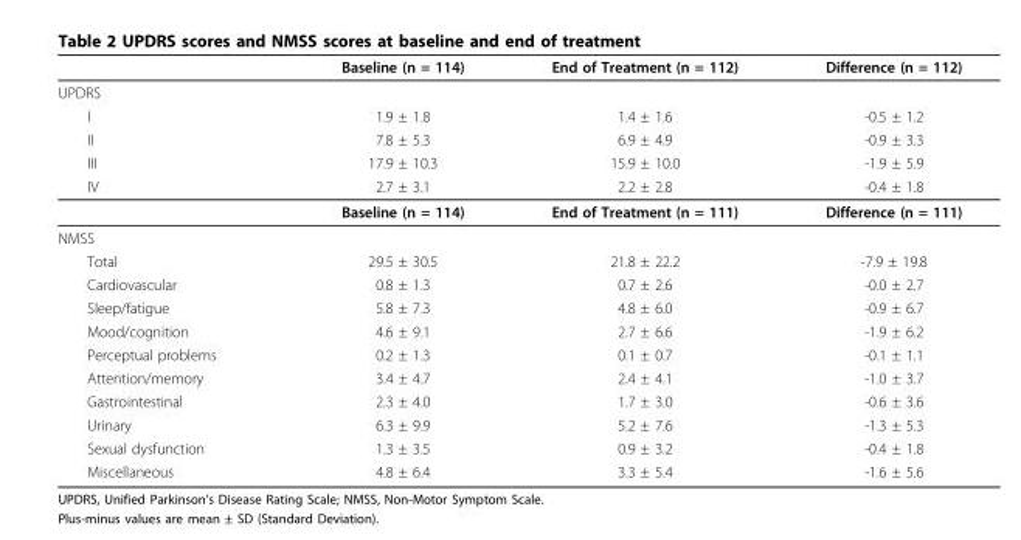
<table><thead><tr><td></td><td>Baseline (n = 114)</td><td>End of Treatment (n = 112)</td><td>Difference (n = 112)</td></tr></thead><tbody><tr><td colspan="4">UPDRS</td></tr><tr><td>I</td><td>1.9 ± 1.8</td><td>1.4 ± 1.6</td><td>-0.5 ± 1.2</td></tr><tr><td>II</td><td>7.8 ± 5.3</td><td>6.9 ± 4.9</td><td>-0.9 ± 3.3</td></tr><tr><td>III</td><td>17.9 ± 10.3</td><td>15.9 ± 10.0</td><td>-1.9 ± 5.9</td></tr><tr><td rowspan="2">IV</td><td>2.7 ± 3.1</td><td>2.2 ± 2.8</td><td>-0.4 ± 1.8</td></tr><tr><td>Baseline (n = 114)</td><td>End of Treatment (n = 111)</td><td>Difference (n = 111)</td></tr><tr><td colspan="4">NMSS</td></tr><tr><td>Total</td><td>29.5 ± 30.5</td><td>21.8 ± 22.2</td><td>-7.9 ± 19.8</td></tr><tr><td>Cardiovascular</td><td>0.8 ± 1.3</td><td>0.7 ± 2.6</td><td>-0.0 ± 2.7</td></tr><tr><td>Sleep/fatigue</td><td>5.8 ± 7.3</td><td>4.8 ± 6.0</td><td>-0.9 ± 6.7</td></tr><tr><td>Mood/cognition</td><td>4.6 ± 9.1</td><td>2.7 ± 6.6</td><td>-1.9 ± 6.2</td></tr><tr><td>Perceptual problems</td><td>0.2 ± 1.3</td><td>0.1 ± 0.7</td><td>-0.1 ± 1.1</td></tr><tr><td>Attention/memory</td><td>3.4 ± 4.7</td><td>2.4 ± 4.1</td><td>-1.0 ± 3.7</td></tr><tr><td>Gastrointestinal</td><td>2.3 ± 4.0</td><td>1.7 ± 3.0</td><td>-0.6 ± 3.6</td></tr><tr><td>Urinary</td><td>6.3 ± 9.9</td><td>5.2 ± 7.6</td><td>-1.3 ± 5.3</td></tr><tr><td>Sexual dysfunction</td><td>1.3 ± 3.5</td><td>0.9 ± 3.2</td><td>-0.4 ± 1.8</td></tr><tr><td>Miscellaneous</td><td>4.8 ± 6.4</td><td>3.3 ± 5.4</td><td>-1.6 ± 5.6</td></tr></tbody></table>